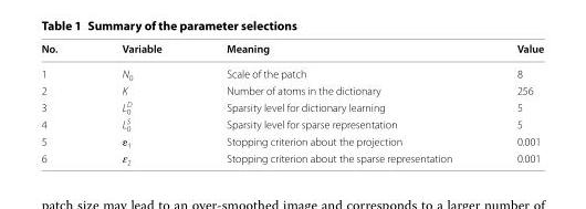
<table><thead><tr><td>No.</td><td>Variable</td><td>Meaning</td><td>Value</td></tr></thead><tbody><tr><td>1</td><td>N<sub>0</sub></td><td>Scale of the patch</td><td>8</td></tr><tr><td>2</td><td>K</td><td>Number of atoms in the dictionary</td><td>256</td></tr><tr><td>3</td><td>LD 0</td><td>Sparsity level for dictionary learning</td><td>5</td></tr><tr><td>4</td><td>LS 0</td><td>Sparsity level for sparse representation</td><td>5</td></tr><tr><td>5</td><td>ɛ<sub>1</sub></td><td>Stopping criterion about the projection</td><td>0.001</td></tr><tr><td>6</td><td>ɛ<sub>2</sub></td><td>Stopping criterion about the sparse representation</td><td>0.001</td></tr></tbody></table>